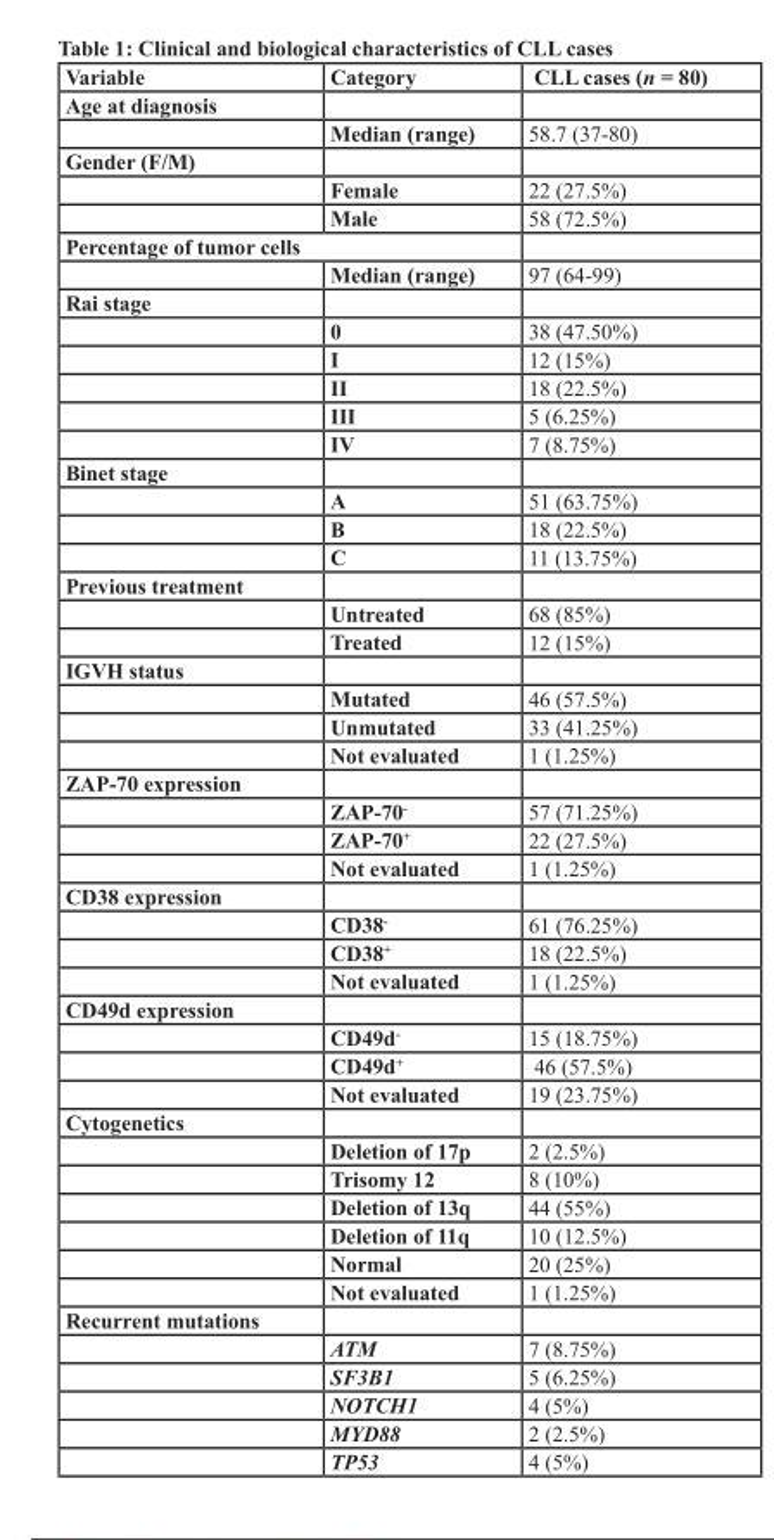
<table><thead><tr><td>Variable</td><td>Category</td><td>CLL cases (n = 80)</td></tr></thead><tbody><tr><td colspan="3">Age at diagnosis</td></tr><tr><td></td><td>Median (range)</td><td>58.7 (37-80)</td></tr><tr><td colspan="3">Gender (F/M)</td></tr><tr><td></td><td>Female</td><td>22 (27.5%)</td></tr><tr><td></td><td>Male</td><td>58 (72.5%)</td></tr><tr><td colspan="3">Percentage of tumor cells</td></tr><tr><td></td><td>Median (range)</td><td>97 (64-99)</td></tr><tr><td colspan="3">Rai stage</td></tr><tr><td></td><td>0</td><td>38 (47.50%)</td></tr><tr><td></td><td>I</td><td>12 (15%)</td></tr><tr><td></td><td>II</td><td>18 (22.5%)</td></tr><tr><td></td><td>III</td><td>5 (6.25%)</td></tr><tr><td></td><td>IV</td><td>7 (8.75%)</td></tr><tr><td colspan="3">Binet stage</td></tr><tr><td></td><td>A</td><td>51 (63.75%)</td></tr><tr><td></td><td>B</td><td>18 (22.5%)</td></tr><tr><td></td><td>C</td><td>11 (13.75%)</td></tr><tr><td colspan="3">Previous treatment</td></tr><tr><td></td><td>Untreated</td><td>68 (85%)</td></tr><tr><td></td><td>Treated</td><td>12 (15%)</td></tr><tr><td colspan="3">IGVH status</td></tr><tr><td></td><td>Mutated</td><td>46 (57.5%)</td></tr><tr><td></td><td>Unmutated</td><td>33 (41.25%)</td></tr><tr><td></td><td>Not evaluated</td><td>1 (1.25%)</td></tr><tr><td colspan="3">ZAP-70 expression</td></tr><tr><td></td><td>ZAP-70<sup>-</sup></td><td>57 (71.25%)</td></tr><tr><td></td><td>ZAP-70<sup>+</sup></td><td>22 (27.5%)</td></tr><tr><td></td><td>Not evaluated</td><td>1 (1.25%)</td></tr><tr><td colspan="3">CD38 expression</td></tr><tr><td></td><td>CD38<sup>-</sup></td><td>61 (76.25%)</td></tr><tr><td></td><td>CD38<sup>+</sup></td><td>18 (22.5%)</td></tr><tr><td></td><td>Not evaluated</td><td>1 (1.25%)</td></tr><tr><td colspan="3">CD49d expression</td></tr><tr><td></td><td>CD49d<sup>-</sup></td><td>15 (18.75%)</td></tr><tr><td></td><td>CD49d<sup>+</sup></td><td>46 (57.5%)</td></tr><tr><td></td><td>Not evaluated</td><td>19 (23.75%)</td></tr><tr><td colspan="3">Cytogenetics</td></tr><tr><td></td><td>Deletion of 17p</td><td>2 (2.5%)</td></tr><tr><td></td><td>Trisomy 12</td><td>8 (10%)</td></tr><tr><td></td><td>Deletion of 13q</td><td>44 (55%)</td></tr><tr><td></td><td>Deletion of 11q</td><td>10 (12.5%)</td></tr><tr><td></td><td>Normal</td><td>20 (25%)</td></tr><tr><td></td><td>Not evaluated</td><td>1 (1.25%)</td></tr><tr><td colspan="3">Recurrent mutations</td></tr><tr><td></td><td>ATM</td><td>7 (8.75%)</td></tr><tr><td></td><td>SF3B1</td><td>5 (6.25%)</td></tr><tr><td></td><td>NOTCH1</td><td>4 (5%)</td></tr><tr><td></td><td>MYD88</td><td>2 (2.5%)</td></tr><tr><td></td><td>TP53</td><td>4 (5%)</td></tr></tbody></table>